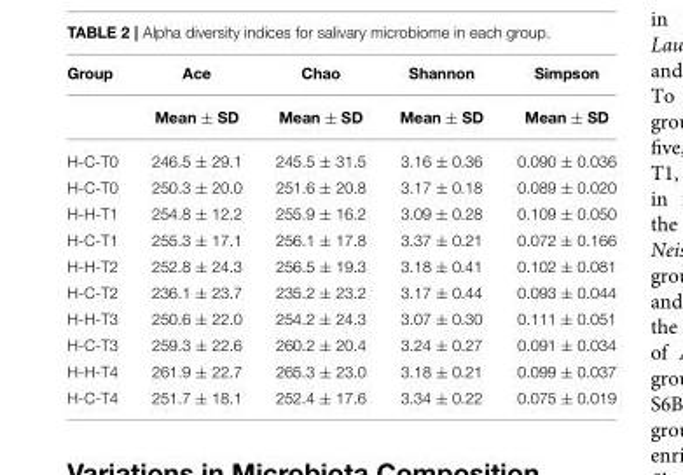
<table><thead><tr><td>Group</td><td>Ace</td><td>Chao</td><td>Shannon</td><td>Simpson</td></tr></thead><tbody><tr><td></td><td>Mean ± SD</td><td>Mean ± SD</td><td>Mean ± SD</td><td>Mean ± SD</td></tr><tr><td>H-C-T0</td><td>246.5 ± 29.1</td><td>245.5 ± 31.5</td><td>3.16 ± 0.36</td><td>0.090 ± 0.036</td></tr><tr><td>H-C-T0</td><td>250.3 ± 20.0</td><td>251.6 ± 20.8</td><td>3.17 ± 0.18</td><td>0.089 ± 0.020</td></tr><tr><td>H-H-T1</td><td>254.8 ± 12.2</td><td>255.9 ± 16.2</td><td>3.09 ± 0.28</td><td>0.109 ± 0.050</td></tr><tr><td>H-C-T1</td><td>255.3 ± 17.1</td><td>256.1 ± 17.8</td><td>3.37 ± 0.21</td><td>0.072 ± 0.166</td></tr><tr><td>H-H-T2</td><td>252.8 ± 24.3</td><td>256.5 ± 19.3</td><td>3.18 ± 0.41</td><td>0.102 ± 0.081</td></tr><tr><td>H-C-T2</td><td>236.1 ± 23.7</td><td>235.2 ± 23.2</td><td>3.17 ± 0.44</td><td>0.093 ± 0.044</td></tr><tr><td>H-H-T3</td><td>250.6 ± 22.0</td><td>254.2 ± 24.3</td><td>3.07 ± 0.30</td><td>0.111 ± 0.051</td></tr><tr><td>H-C-T3</td><td>259.3 ± 22.6</td><td>260.2 ± 20.4</td><td>3.24 ± 0.27</td><td>0.091 ± 0.034</td></tr><tr><td>H-H-T4</td><td>261.9 ± 22.7</td><td>265.3 ± 23.0</td><td>3.18 ± 0.21</td><td>0.099 ± 0.037</td></tr><tr><td>H-C-T4</td><td>251.7 ± 18.1</td><td>252.4 ± 17.6</td><td>3.34 ± 0.22</td><td>0.075 ± 0.019</td></tr></tbody></table>